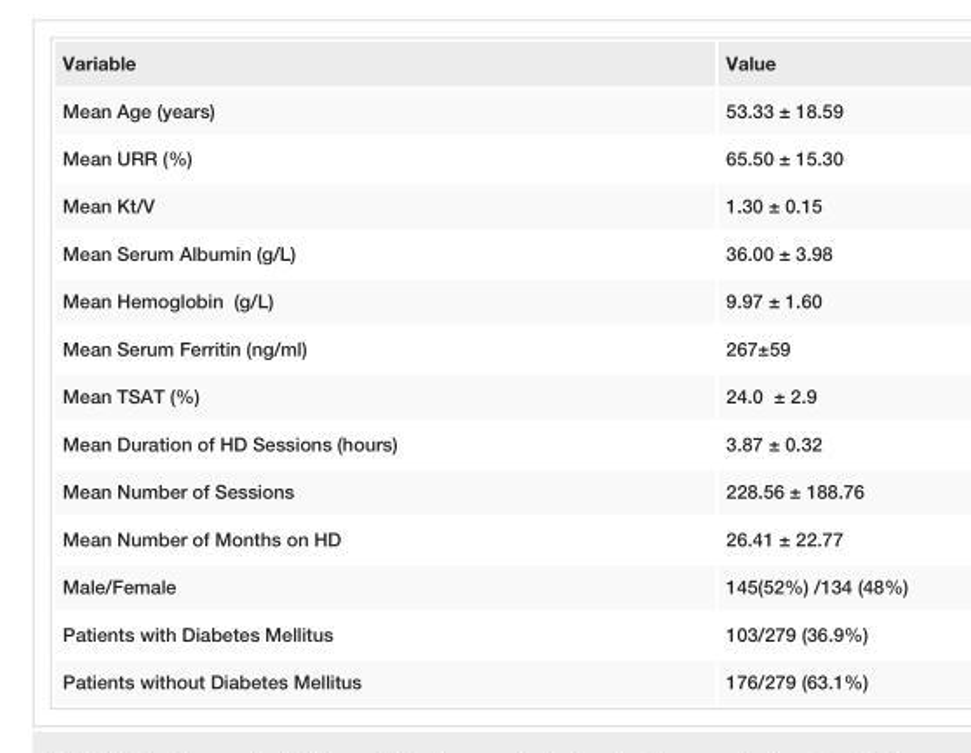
<table><tbody><tr><td>Variable</td><td>Value</td></tr><tr><td>Mean Age (years)</td><td>53.33 ± 18.59</td></tr><tr><td>Mean URR (%)</td><td>65.50 ± 15.30</td></tr><tr><td>Mean Kt/V</td><td>1.30 ± 0.15</td></tr><tr><td>Mean Serum Albumin (g/L)</td><td>36.00 ± 3.98</td></tr><tr><td>Mean Hemoglobin (g/L)</td><td>9.97 ± 1.60</td></tr><tr><td>Mean Serum Ferritin (ng/ml)</td><td>267±59</td></tr><tr><td>Mean TSAT (%)</td><td>24.0 ± 2.9</td></tr><tr><td>Mean Duration of HD Sessions (hours)</td><td>3.87 ± 0.32</td></tr><tr><td>Mean Number of Sessions</td><td>228.56 ± 188.76</td></tr><tr><td>Mean Number of Months on HD</td><td>26.41 ± 22.77</td></tr><tr><td>Male/Female</td><td>145(52%) /134 (48%)</td></tr><tr><td>Patients with Diabetes Mellitus</td><td>103/279 (36.9%)</td></tr><tr><td>Patients without Diabetes Mellitus</td><td>176/279 (63.1%)</td></tr></tbody></table>